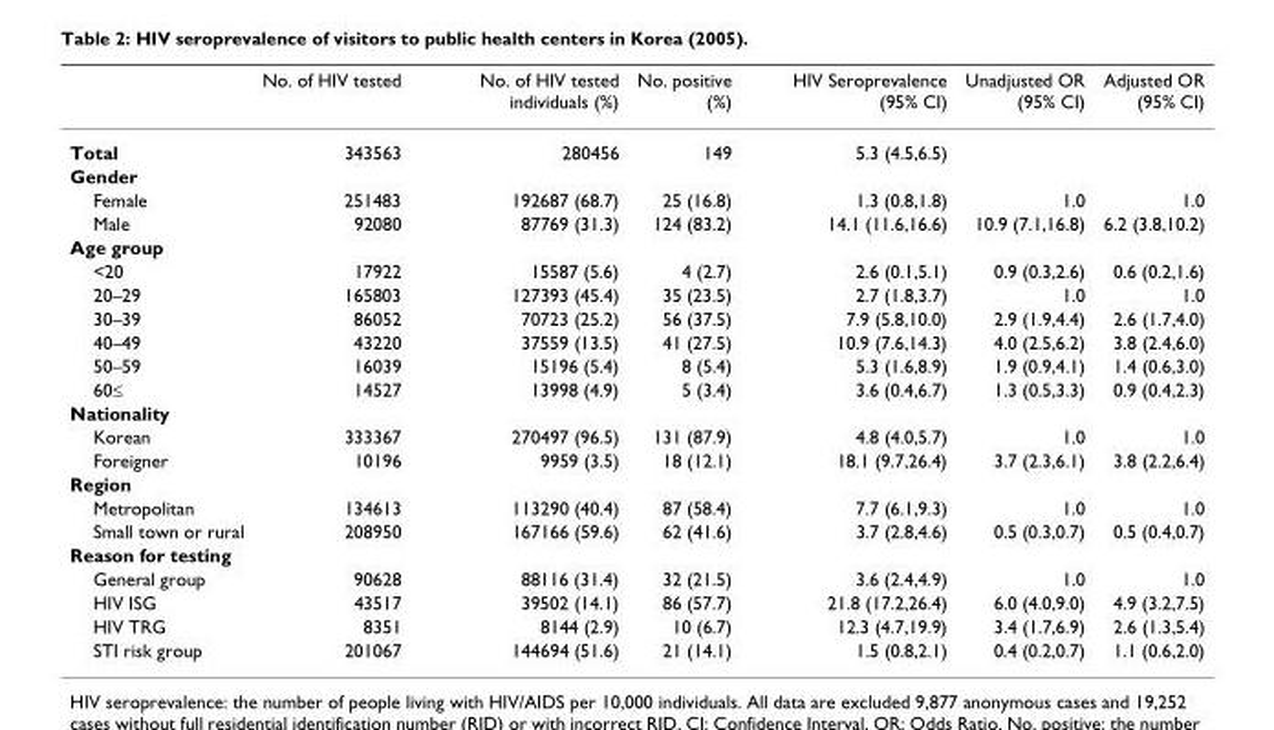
<table><thead><tr><td></td><td>No. of HIV tested</td><td>No. of HIV tested individuals (%)</td><td>No. positive (%)</td><td>HIV Seroprevalence (95% CI)</td><td>Unadjusted OR (95% CI)</td><td>Adjusted OR (95% CI)</td></tr></thead><tbody><tr><td>Total</td><td>343563</td><td>280456</td><td>149</td><td>5.3 (4.5,6.5)</td><td></td><td></td></tr><tr><td colspan="7">Gender</td></tr><tr><td>Female</td><td>251483</td><td>192687 (68.7)</td><td>25 (16.8)</td><td>1.3 (0.8,1.8)</td><td>1.0</td><td>1.0</td></tr><tr><td>Male</td><td>92080</td><td>87769 (31.3)</td><td>124 (83.2)</td><td>14.1 (11.6,16.6)</td><td>10.9 (7.1,16.8)</td><td>6.2 (3.8,10.2)</td></tr><tr><td colspan="7">Age group</td></tr><tr><td>&lt;20</td><td>17922</td><td>15587 (5.6)</td><td>4 (2.7)</td><td>2.6 (0.1,5.1)</td><td>0.9 (0.3,2.6)</td><td>0.6 (0.2,1.6)</td></tr><tr><td>20–29</td><td>165803</td><td>127393 (45.4)</td><td>35 (23.5)</td><td>2.7 (1.8,3.7)</td><td>1.0</td><td>1.0</td></tr><tr><td>30–39</td><td>86052</td><td>70723 (25.2)</td><td>56 (37.5)</td><td>7.9 (5.8,10.0)</td><td>2.9 (1.9,4.4)</td><td>2.6 (1.7,4.0)</td></tr><tr><td>40–49</td><td>43220</td><td>37559 (13.5)</td><td>41 (27.5)</td><td>10.9 (7.6,14.3)</td><td>4.0 (2.5,6.2)</td><td>3.8 (2.4,6.0)</td></tr><tr><td>50–59</td><td>16039</td><td>15196 (5.4)</td><td>8 (5.4)</td><td>5.3 (1.6,8.9)</td><td>1.9 (0.9,4.1)</td><td>1.4 (0.6,3.0)</td></tr><tr><td>60≤</td><td>14527</td><td>13998 (4.9)</td><td>5 (3.4)</td><td>3.6 (0.4,6.7)</td><td>1.3 (0.5,3.3)</td><td>0.9 (0.4,2.3)</td></tr><tr><td colspan="7">Nationality</td></tr><tr><td>Korean</td><td>333367</td><td>270497 (96.5)</td><td>131 (87.9)</td><td>4.8 (4.0,5.7)</td><td>1.0</td><td>1.0</td></tr><tr><td>Foreigner</td><td>10196</td><td>9959 (3.5)</td><td>18 (12.1)</td><td>18.1 (9.7,26.4)</td><td>3.7 (2.3,6.1)</td><td>3.8 (2.2,6.4)</td></tr><tr><td colspan="7">Region</td></tr><tr><td>Metropolitan</td><td>134613</td><td>113290 (40.4)</td><td>87 (58.4)</td><td>7.7 (6.1,9.3)</td><td>1.0</td><td>1.0</td></tr><tr><td>Small town or rural</td><td>208950</td><td>167166 (59.6)</td><td>62 (41.6)</td><td>3.7 (2.8,4.6)</td><td>0.5 (0.3,0.7)</td><td>0.5 (0.4,0.7)</td></tr><tr><td colspan="7">Reason for testing</td></tr><tr><td>General group</td><td>90628</td><td>88116 (31.4)</td><td>32 (21.5)</td><td>3.6 (2.4,4.9)</td><td>1.0</td><td>1.0</td></tr><tr><td>HIV ISG</td><td>43517</td><td>39502 (14.1)</td><td>86 (57.7)</td><td>21.8 (17.2,26.4)</td><td>6.0 (4.0,9.0)</td><td>4.9 (3.2,7.5)</td></tr><tr><td>HIV TRG</td><td>8351</td><td>8144 (2.9)</td><td>10 (6.7)</td><td>12.3 (4.7,19.9)</td><td>3.4 (1.7,6.9)</td><td>2.6 (1.3,5.4)</td></tr><tr><td>STI risk group</td><td>201067</td><td>144694 (51.6)</td><td>21 (14.1)</td><td>1.5 (0.8,2.1)</td><td>0.4 (0.2,0.7)</td><td>1.1 (0.6,2.0)</td></tr></tbody></table>